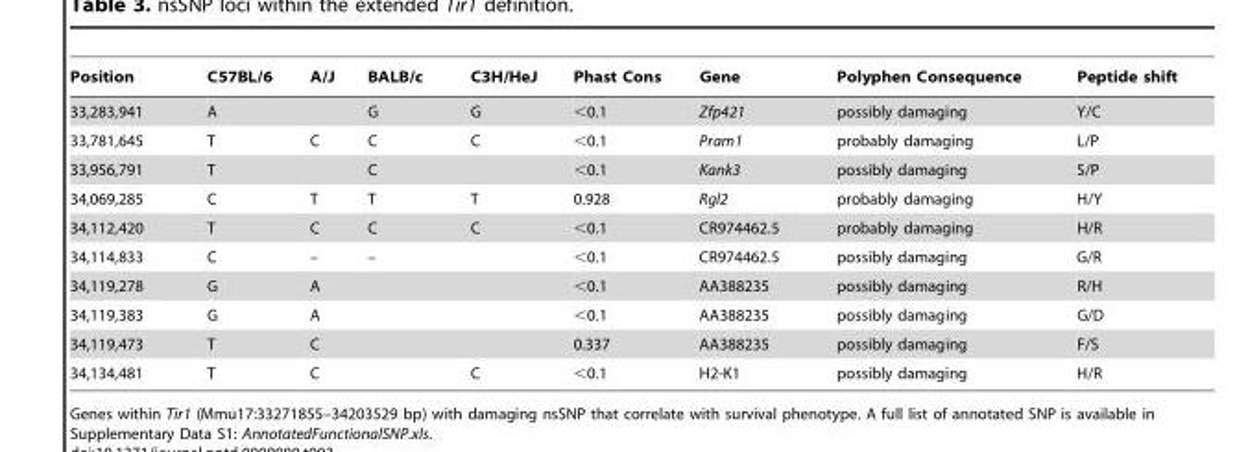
<table><thead><tr><td>Position</td><td>C57BL/6</td><td>A/J</td><td>BALB/c</td><td>C3H/HeJ</td><td>Phast Cons</td><td>Gene</td><td>Polyphen Consequence</td><td>Peptide shift</td></tr></thead><tbody><tr><td>33,283,941</td><td>A</td><td></td><td>G</td><td>G</td><td>&lt;0.1</td><td>Zfp421</td><td>possibly damaging</td><td>Y/C</td></tr><tr><td>33,781,645</td><td>T</td><td>C</td><td>C</td><td>C</td><td>&lt;0.1</td><td>Pram1</td><td>probably damaging</td><td>L/P</td></tr><tr><td>33,956,791</td><td>T</td><td></td><td>C</td><td></td><td>&lt;0.1</td><td>Kank3</td><td>possibly damaging</td><td>S/P</td></tr><tr><td>34,069,285</td><td>C</td><td>T</td><td>T</td><td>T</td><td>0.928</td><td>Rgl2</td><td>probably damaging</td><td>H/Y</td></tr><tr><td>34,112,420</td><td>T</td><td>C</td><td>C</td><td>C</td><td>&lt;0.1</td><td>CR974462.5</td><td>probably damaging</td><td>H/R</td></tr><tr><td>34,114,833</td><td>C</td><td>–</td><td>–</td><td></td><td>&lt;0.1</td><td>CR974462.5</td><td>possibly damaging</td><td>G/R</td></tr><tr><td>34,119,278</td><td>G</td><td>A</td><td></td><td></td><td>&lt;0.1</td><td>AA388235</td><td>possibly damaging</td><td>R/H</td></tr><tr><td>34,119,383</td><td>G</td><td>A</td><td></td><td></td><td>&lt;0.1</td><td>AA388235</td><td>possibly damaging</td><td>G/D</td></tr><tr><td>34,119,473</td><td>T</td><td>C</td><td></td><td></td><td>0.337</td><td>AA388235</td><td>possibly damaging</td><td>F/S</td></tr><tr><td>34,134,481</td><td>T</td><td>C</td><td></td><td>C</td><td>&lt;0.1</td><td>H2-K1</td><td>possibly damaging</td><td>H/R</td></tr></tbody></table>